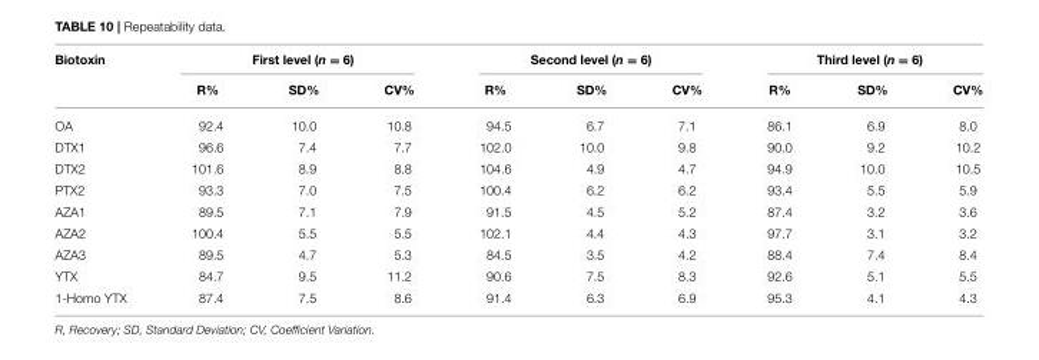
<table><thead><tr><td rowspan="2">Biotoxin</td><td colspan="3">First level (n = 6)</td><td colspan="3">Second level (n = 6)</td><td colspan="3">Third level (n = 6)</td></tr><tr><td>R%</td><td>SD%</td><td>CV%</td><td>R%</td><td>SD%</td><td>CV%</td><td>R%</td><td>SD%</td><td>CV%</td></tr></thead><tbody><tr><td>OA</td><td>92.4</td><td>10.0</td><td>10.8</td><td>94.5</td><td>6.7</td><td>7.1</td><td>86.1</td><td>6.9</td><td>8.0</td></tr><tr><td>DTX1</td><td>96.6</td><td>7.4</td><td>7.7</td><td>102.0</td><td>10.0</td><td>9.8</td><td>90.0</td><td>9.2</td><td>10.2</td></tr><tr><td>DTX2</td><td>101.6</td><td>8.9</td><td>8.8</td><td>104.6</td><td>4.9</td><td>4.7</td><td>94.9</td><td>10.0</td><td>10.5</td></tr><tr><td>PTX2</td><td>93.3</td><td>7.0</td><td>7.5</td><td>100.4</td><td>6.2</td><td>6.2</td><td>93.4</td><td>5.5</td><td>5.9</td></tr><tr><td>AZA1</td><td>89.5</td><td>7.1</td><td>7.9</td><td>91.5</td><td>4.5</td><td>5.2</td><td>87.4</td><td>3.2</td><td>3.6</td></tr><tr><td>AZA2</td><td>100.4</td><td>5.5</td><td>5.5</td><td>102.1</td><td>4.4</td><td>4.3</td><td>97.7</td><td>3.1</td><td>3.2</td></tr><tr><td>AZA3</td><td>89.5</td><td>4.7</td><td>5.3</td><td>84.5</td><td>3.5</td><td>4.2</td><td>88.4</td><td>7.4</td><td>8.4</td></tr><tr><td>YTX</td><td>84.7</td><td>9.5</td><td>11.2</td><td>90.6</td><td>7.5</td><td>8.3</td><td>92.6</td><td>5.1</td><td>5.5</td></tr><tr><td>1-Homo YTX</td><td>87.4</td><td>7.5</td><td>8.6</td><td>91.4</td><td>6.3</td><td>6.9</td><td>95.3</td><td>4.1</td><td>4.3</td></tr></tbody></table>